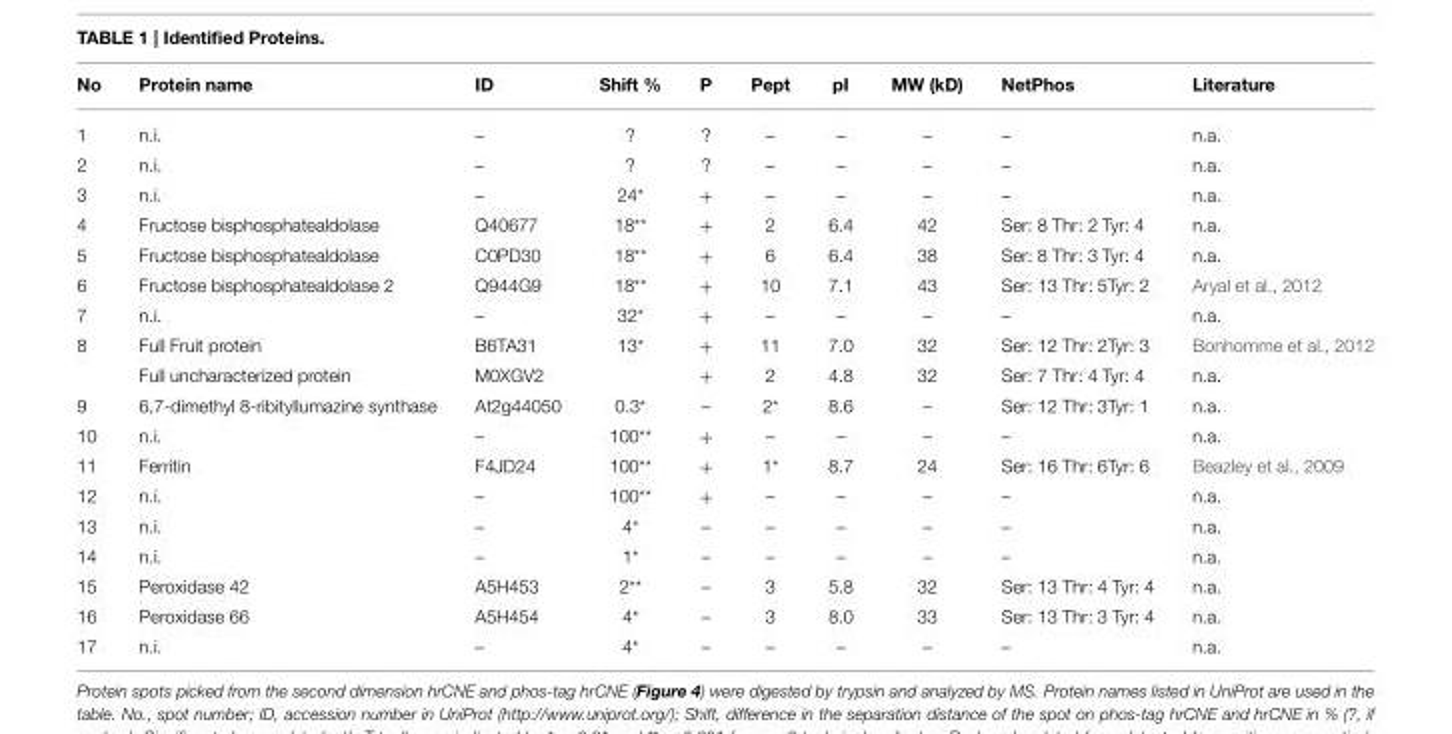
<table><thead><tr><td>No</td><td>Protein name</td><td>ID</td><td>Shift %</td><td>P</td><td>Pept</td><td>pI</td><td>MW (kD)</td><td>NetPhos</td><td>Literature</td></tr></thead><tbody><tr><td>1</td><td>n.i.</td><td>–</td><td>?</td><td>?</td><td>–</td><td>–</td><td>–</td><td>–</td><td>n.a.</td></tr><tr><td>2</td><td>n.i.</td><td>–</td><td>?</td><td>?</td><td>–</td><td>–</td><td>–</td><td>–</td><td>n.a.</td></tr><tr><td>3</td><td>n.i.</td><td>–</td><td>24*</td><td>+</td><td>–</td><td>–</td><td>–</td><td>–</td><td>n.a.</td></tr><tr><td>4</td><td>Fructose bisphosphatealdolase</td><td>Q40677</td><td>18**</td><td>+</td><td>2</td><td>6.4</td><td>42</td><td>Ser: 8 Thr: 2 Tyr: 4</td><td>n.a.</td></tr><tr><td>5</td><td>Fructose bisphosphatealdolase</td><td>C0PD30</td><td>18**</td><td>+</td><td>6</td><td>6.4</td><td>38</td><td>Ser: 8 Thr: 3 Tyr: 4</td><td>n.a.</td></tr><tr><td>6</td><td>Fructose bisphosphatealdolase 2</td><td>Q944G9</td><td>18**</td><td>+</td><td>10</td><td>7.1</td><td>43</td><td>Ser: 13 Thr: 5Tyr: 2</td><td>Aryal et al., 2012</td></tr><tr><td>7</td><td>n.i.</td><td>–</td><td>32*</td><td>+</td><td>–</td><td>–</td><td>–</td><td>–</td><td>n.a.</td></tr><tr><td rowspan="2">8</td><td>Full Fruit protein</td><td>B6TA31</td><td>13*</td><td>+</td><td>11</td><td>7.0</td><td>32</td><td>Ser: 12 Thr: 2Tyr: 3</td><td>Bonhomme et al., 2012</td></tr><tr><td>Full uncharacterized protein</td><td>M0XGV2</td><td></td><td>+</td><td>2</td><td>4.8</td><td>32</td><td>Ser: 7 Thr: 4 Tyr: 4</td><td>n.a.</td></tr><tr><td>9</td><td>6,7-dimethyl 8-ribityllumazine synthase</td><td>At2g44050</td><td>0.3*</td><td>–</td><td>2*</td><td>8.6</td><td>–</td><td>Ser: 12 Thr: 3Tyr: 1</td><td>n.a.</td></tr><tr><td>10</td><td>n.i.</td><td>–</td><td>100**</td><td>+</td><td>–</td><td>–</td><td>–</td><td>–</td><td>n.a.</td></tr><tr><td>11</td><td>Ferritin</td><td>F4JD24</td><td>100**</td><td>+</td><td>1*</td><td>8.7</td><td>24</td><td>Ser: 16 Thr: 6Tyr: 6</td><td>Beazley et al., 2009</td></tr><tr><td>12</td><td>n.i.</td><td>–</td><td>100**</td><td>+</td><td>–</td><td>–</td><td>–</td><td>–</td><td>n.a.</td></tr><tr><td>13</td><td>n.i.</td><td>–</td><td>4*</td><td>–</td><td>–</td><td>–</td><td>–</td><td>–</td><td>n.a.</td></tr><tr><td>14</td><td>n.i.</td><td>–</td><td>1*</td><td>–</td><td>–</td><td>–</td><td>–</td><td>–</td><td>n.a.</td></tr><tr><td>15</td><td>Peroxidase 42</td><td>A5H453</td><td>2**</td><td>–</td><td>3</td><td>5.8</td><td>32</td><td>Ser: 13 Thr: 4 Tyr: 4</td><td>n.a.</td></tr><tr><td>16</td><td>Peroxidase 66</td><td>A5H454</td><td>4*</td><td>–</td><td>3</td><td>8.0</td><td>33</td><td>Ser: 13 Thr: 3 Tyr: 4</td><td>n.a.</td></tr><tr><td>17</td><td>n.i.</td><td>–</td><td>4*</td><td>–</td><td>–</td><td>–</td><td>–</td><td>–</td><td>n.a.</td></tr></tbody></table>